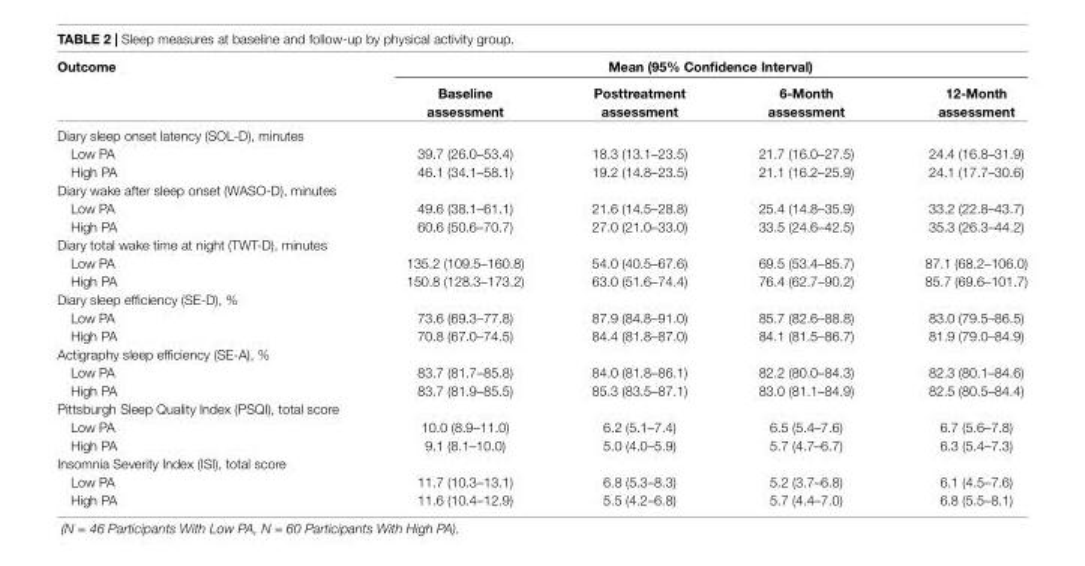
<table><thead><tr><td rowspan="2">Outcome</td><td colspan="4">Mean (95% Confidence Interval)</td></tr><tr><td>Baseline assessment</td><td>Posttreatment assessment</td><td>6-Month assessment</td><td>12-Month assessment</td></tr></thead><tbody><tr><td colspan="5">Diary sleep onset latency (SOL-D), minutes</td></tr><tr><td>Low PA</td><td>39.7 (26.0–53.4)</td><td>18.3 (13.1–23.5)</td><td>21.7 (16.0–27.5)</td><td>24.4 (16.8–31.9)</td></tr><tr><td>High PA</td><td>46.1 (34.1–58.1)</td><td>19.2 (14.8–23.5)</td><td>21.1 (16.2–25.9)</td><td>24.1 (17.7–30.6)</td></tr><tr><td colspan="5">Diary wake after sleep onset (WASO-D), minutes</td></tr><tr><td>Low PA</td><td>49.6 (38.1–61.1)</td><td>21.6 (14.5–28.8)</td><td>25.4 (14.8–35.9)</td><td>33.2 (22.8–43.7)</td></tr><tr><td>High PA</td><td>60.6 (50.6–70.7)</td><td>27.0 (21.0–33.0)</td><td>33.5 (24.6–42.5)</td><td>35.3 (26.3–44.2)</td></tr><tr><td colspan="5">Diary total wake time at night (TWT-D), minutes</td></tr><tr><td>Low PA</td><td>135.2 (109.5–160.8)</td><td>54.0 (40.5–67.6)</td><td>69.5 (53.4–85.7)</td><td>87.1 (68.2–106.0)</td></tr><tr><td>High PA</td><td>150.8 (128.3–173.2)</td><td>63.0 (51.6–74.4)</td><td>76.4 (62.7–90.2)</td><td>85.7 (69.6–101.7)</td></tr><tr><td colspan="5">Diary sleep efficiency (SE-D), %</td></tr><tr><td>Low PA</td><td>73.6 (69.3–77.8)</td><td>87.9 (84.8–91.0)</td><td>85.7 (82.6–88.8)</td><td>83.0 (79.5–86.5)</td></tr><tr><td>High PA</td><td>70.8 (67.0–74.5)</td><td>84.4 (81.8–87.0)</td><td>84.1 (81.5–86.7)</td><td>81.9 (79.0–84.9)</td></tr><tr><td colspan="5">Actigraphy sleep efficiency (SE-A), %</td></tr><tr><td>Low PA</td><td>83.7 (81.7–85.8)</td><td>84.0 (81.8–86.1)</td><td>82.2 (80.0–84.3)</td><td>82.3 (80.1–84.6)</td></tr><tr><td>High PA</td><td>83.7 (81.9–85.5)</td><td>85.3 (83.5–87.1)</td><td>83.0 (81.1–84.9)</td><td>82.5 (80.5–84.4)</td></tr><tr><td colspan="5">Pittsburgh Sleep Quality Index (PSQI), total score</td></tr><tr><td>Low PA</td><td>10.0 (8.9–11.0)</td><td>6.2 (5.1–7.4)</td><td>6.5 (5.4–7.6)</td><td>6.7 (5.6–7.8)</td></tr><tr><td>High PA</td><td>9.1 (8.1–10.0)</td><td>5.0 (4.0–5.9)</td><td>5.7 (4.7–6.7)</td><td>6.3 (5.4–7.3)</td></tr><tr><td colspan="5">Insomnia Severity Index (ISI), total score</td></tr><tr><td>Low PA</td><td>11.7 (10.3–13.1)</td><td>6.8 (5.3–8.3)</td><td>5.2 (3.7–6.8)</td><td>6.1 (4.5–7.6)</td></tr><tr><td>High PA</td><td>11.6 (10.4–12.9)</td><td>5.5 (4.2–6.8)</td><td>5.7 (4.4–7.0)</td><td>6.8 (5.5–8.1)</td></tr></tbody></table>